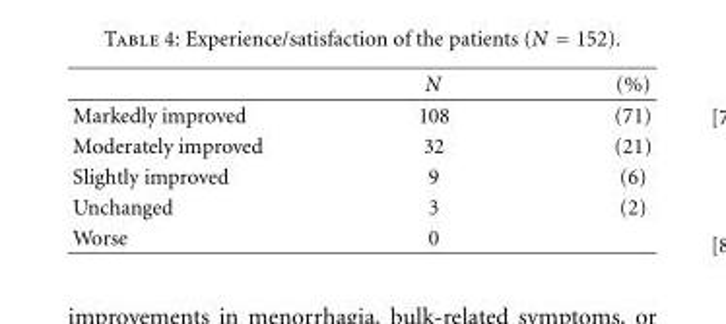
<table><thead><tr><td></td><td>N</td><td>(%)</td></tr></thead><tbody><tr><td>Markedly improved</td><td>108</td><td>(71)</td></tr><tr><td>Moderately improved</td><td>32</td><td>(21)</td></tr><tr><td>Slightly improved</td><td>9</td><td>(6)</td></tr><tr><td>Unchanged</td><td>3</td><td>(2)</td></tr><tr><td>Worse</td><td>0</td><td></td></tr></tbody></table>